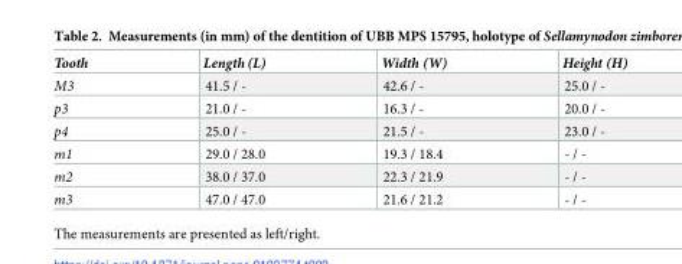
<table><thead><tr><td>Tooth</td><td>Length (L)</td><td>Width (W)</td><td>Height (H)</td></tr></thead><tbody><tr><td>M3</td><td>41.5 / -</td><td>42.6 / -</td><td>25.0 / -</td></tr><tr><td>p3</td><td>21.0 / -</td><td>16.3 / -</td><td>20.0 / -</td></tr><tr><td>p4</td><td>25.0 / -</td><td>21.5 / -</td><td>23.0 / -</td></tr><tr><td>m1</td><td>29.0 / 28.0</td><td>19.3 / 18.4</td><td>- / -</td></tr><tr><td>m2</td><td>38.0 / 37.0</td><td>22.3 / 21.9</td><td>- / -</td></tr><tr><td>m3</td><td>47.0 / 47.0</td><td>21.6 / 21.2</td><td>- / -</td></tr></tbody></table>